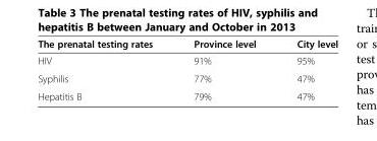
<table><thead><tr><td>The prenatal testing rates</td><td>Province level</td><td>City level</td></tr></thead><tbody><tr><td>HIV</td><td>91%</td><td>95%</td></tr><tr><td>Syphilis</td><td>77%</td><td>47%</td></tr><tr><td>Hepatitis B</td><td>79%</td><td>47%</td></tr></tbody></table>